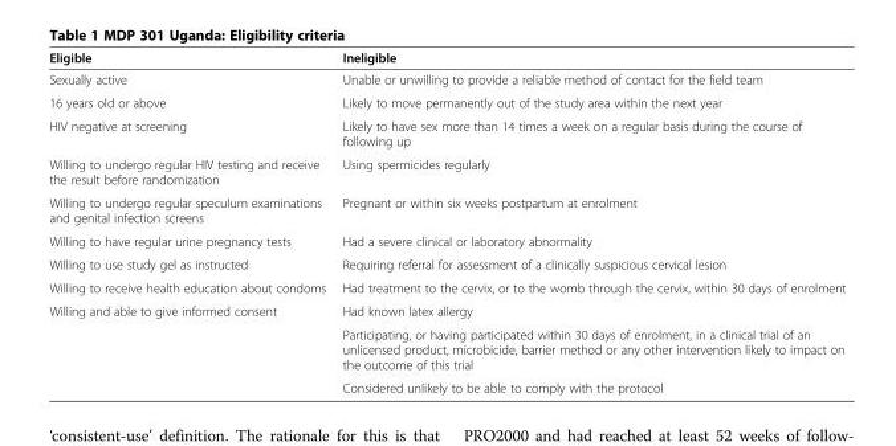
<table><thead><tr><td>Eligible</td><td>Ineligible</td></tr></thead><tbody><tr><td>Sexually active</td><td>Unable or unwilling to provide a reliable method of contact for the field team</td></tr><tr><td>16 years old or above</td><td>Likely to move permanently out of the study area within the next year</td></tr><tr><td>HIV negative at screening</td><td>Likely to have sex more than 14 times a week on a regular basis during the course of following up</td></tr><tr><td>Willing to undergo regular HIV testing and receive the result before randomization</td><td>Using spermicides regularly</td></tr><tr><td>Willing to undergo regular speculum examinations and genital infection screens</td><td>Pregnant or within six weeks postpartum at enrolment</td></tr><tr><td>Willing to have regular urine pregnancy tests</td><td>Had a severe clinical or laboratory abnormality</td></tr><tr><td>Willing to use study gel as instructed</td><td>Requiring referral for assessment of a clinically suspicious cervical lesion</td></tr><tr><td>Willing to receive health education about condoms</td><td>Had treatment to the cervix, or to the womb through the cervix, within 30 days of enrolment</td></tr><tr><td rowspan="3">Willing and able to give informed consent</td><td>Had known latex allergy</td></tr><tr><td>Participating, or having participated within 30 days of enrolment, in a clinical trial of an unlicensed product, microbicide, barrier method or any other intervention likely to impact on the outcome of this trial</td></tr><tr><td>Considered unlikely to be able to comply with the protocol</td></tr></tbody></table>